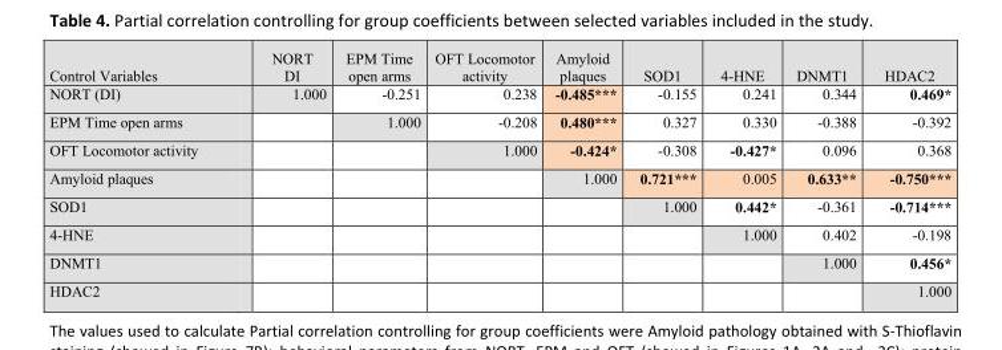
<table><thead><tr><td>Control Variables</td><td>NORT DI</td><td>EPM Time open arms</td><td>OFT Locomotor activity</td><td>Amyloid plaques</td><td>SOD1</td><td>4-HNE</td><td>DNMT1</td><td>HDAC2</td></tr></thead><tbody><tr><td>NORT (DI)</td><td>1.000</td><td>-0.251</td><td>0.238</td><td>-0.485***</td><td>-0.155</td><td>0.241</td><td>0.344</td><td>0.469*</td></tr><tr><td>EPM Time open arms</td><td></td><td>1.000</td><td>-0.208</td><td>0.480***</td><td>0.327</td><td>0.330</td><td>-0.388</td><td>-0.392</td></tr><tr><td>OFT Locomotor activity</td><td></td><td></td><td>1.000</td><td>-0.424*</td><td>-0.308</td><td>-0.427*</td><td>0.096</td><td>0.368</td></tr><tr><td>Amyloid plaques</td><td></td><td></td><td></td><td>1.000</td><td>0.721***</td><td>0.005</td><td>0.633**</td><td>-0.750***</td></tr><tr><td>SOD1</td><td></td><td></td><td></td><td></td><td>1.000</td><td>0.442*</td><td>-0.361</td><td>-0.714***</td></tr><tr><td>4-HNE</td><td></td><td></td><td></td><td></td><td></td><td>1.000</td><td>0.402</td><td>-0.198</td></tr><tr><td>DNMT1</td><td></td><td></td><td></td><td></td><td></td><td></td><td>1.000</td><td>0.456*</td></tr><tr><td>HDAC2</td><td></td><td></td><td></td><td></td><td></td><td></td><td></td><td>1.000</td></tr></tbody></table>